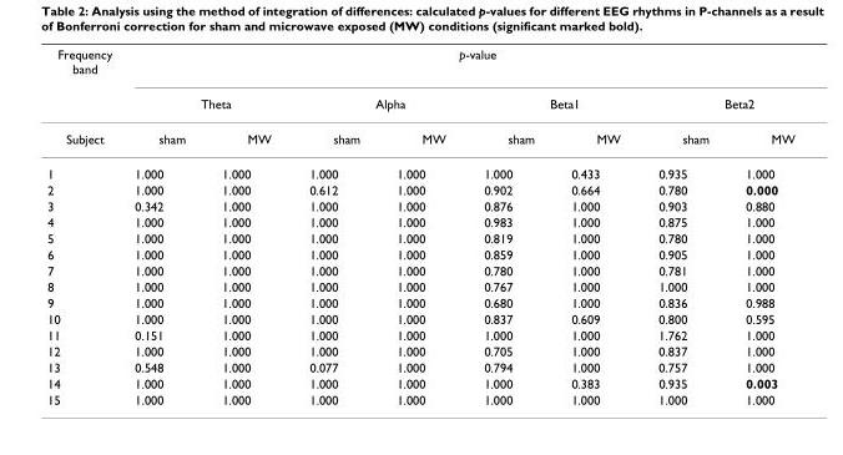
<table><thead><tr><td rowspan="3">Frequency band Subject</td><td colspan="8">p-value</td></tr><tr><td colspan="2">Theta</td><td colspan="2">Alpha</td><td colspan="2">Beta1</td><td colspan="2">Beta2</td></tr><tr><td>sham</td><td>MW</td><td>sham</td><td>MW</td><td>sham</td><td>MW</td><td>sham</td><td>MW</td></tr></thead><tbody><tr><td>1</td><td>1.000</td><td>1.000</td><td>1.000</td><td>1.000</td><td>1.000</td><td>0.433</td><td>0.935</td><td>1.000</td></tr><tr><td>2</td><td>1.000</td><td>1.000</td><td>0.612</td><td>1.000</td><td>0.902</td><td>0.664</td><td>0.780</td><td>0.000</td></tr><tr><td>3</td><td>0.342</td><td>1.000</td><td>1.000</td><td>1.000</td><td>0.876</td><td>1.000</td><td>0.903</td><td>0.880</td></tr><tr><td>4</td><td>1.000</td><td>1.000</td><td>1.000</td><td>1.000</td><td>0.983</td><td>1.000</td><td>0.875</td><td>1.000</td></tr><tr><td>5</td><td>1.000</td><td>1.000</td><td>1.000</td><td>1.000</td><td>0.819</td><td>1.000</td><td>0.780</td><td>1.000</td></tr><tr><td>6</td><td>1.000</td><td>1.000</td><td>1.000</td><td>1.000</td><td>0.859</td><td>1.000</td><td>0.905</td><td>1.000</td></tr><tr><td>7</td><td>1.000</td><td>1.000</td><td>1.000</td><td>1.000</td><td>0.780</td><td>1.000</td><td>0.781</td><td>1.000</td></tr><tr><td>8</td><td>1.000</td><td>1.000</td><td>1.000</td><td>1.000</td><td>0.767</td><td>1.000</td><td>1.000</td><td>1.000</td></tr><tr><td>9</td><td>1.000</td><td>1.000</td><td>1.000</td><td>1.000</td><td>0.680</td><td>1.000</td><td>0.836</td><td>0.988</td></tr><tr><td>10</td><td>1.000</td><td>1.000</td><td>1.000</td><td>1.000</td><td>0.837</td><td>0.609</td><td>0.800</td><td>0.595</td></tr><tr><td>11</td><td>0.151</td><td>1.000</td><td>1.000</td><td>1.000</td><td>1.000</td><td>1.000</td><td>1.762</td><td>1.000</td></tr><tr><td>12</td><td>1.000</td><td>1.000</td><td>1.000</td><td>1.000</td><td>0.705</td><td>1.000</td><td>0.837</td><td>1.000</td></tr><tr><td>13</td><td>0.548</td><td>1.000</td><td>0.077</td><td>1.000</td><td>0.794</td><td>1.000</td><td>0.757</td><td>1.000</td></tr><tr><td>14</td><td>1.000</td><td>1.000</td><td>1.000</td><td>1.000</td><td>1.000</td><td>0.383</td><td>0.935</td><td>0.003</td></tr><tr><td>15</td><td>1.000</td><td>1.000</td><td>1.000</td><td>1.000</td><td>1.000</td><td>1.000</td><td>1.000</td><td>1.000</td></tr></tbody></table>